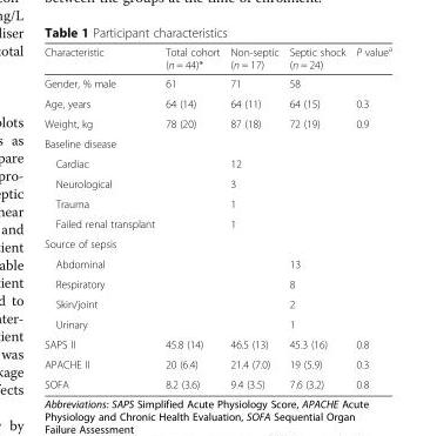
<table><thead><tr><td>Characteristic</td><td>Total cohort (n = 44)*</td><td>Non-septic (n = 17)</td><td>Septic shock (n = 24)</td><td>P value<sup>a</sup></td></tr></thead><tbody><tr><td>Gender, % male</td><td>61</td><td>71</td><td>58</td><td></td></tr><tr><td>Age, years</td><td>64 (14)</td><td>64 (11)</td><td>64 (15)</td><td>0.3</td></tr><tr><td>Weight, kg</td><td>78 (20)</td><td>87 (18)</td><td>72 (19)</td><td>0.9</td></tr><tr><td colspan="5">Baseline disease</td></tr><tr><td>Cardiac</td><td></td><td>12</td><td></td><td rowspan="4"></td></tr><tr><td>Neurological</td><td></td><td>3</td><td></td></tr><tr><td>Trauma</td><td></td><td>1</td><td></td></tr><tr><td>Failed renal transplant</td><td></td><td>1</td><td></td></tr><tr><td colspan="5">Source of sepsis</td></tr><tr><td>Abdominal</td><td></td><td></td><td>13</td><td rowspan="4"></td></tr><tr><td>Respiratory</td><td></td><td></td><td>8</td></tr><tr><td>Skin/joint</td><td></td><td></td><td>2</td></tr><tr><td>Urinary</td><td></td><td></td><td>1</td></tr><tr><td>SAPS II</td><td>45.8 (14)</td><td>46.5 (13)</td><td>45.3 (16)</td><td>0.8</td></tr><tr><td>APACHE II</td><td>20 (6.4)</td><td>21.4 (7.0)</td><td>19 (5.9)</td><td>0.3</td></tr><tr><td>SOFA</td><td>8.2 (3.6)</td><td>9.4 (3.5)</td><td>7.6 (3.2)</td><td>0.8</td></tr></tbody></table>